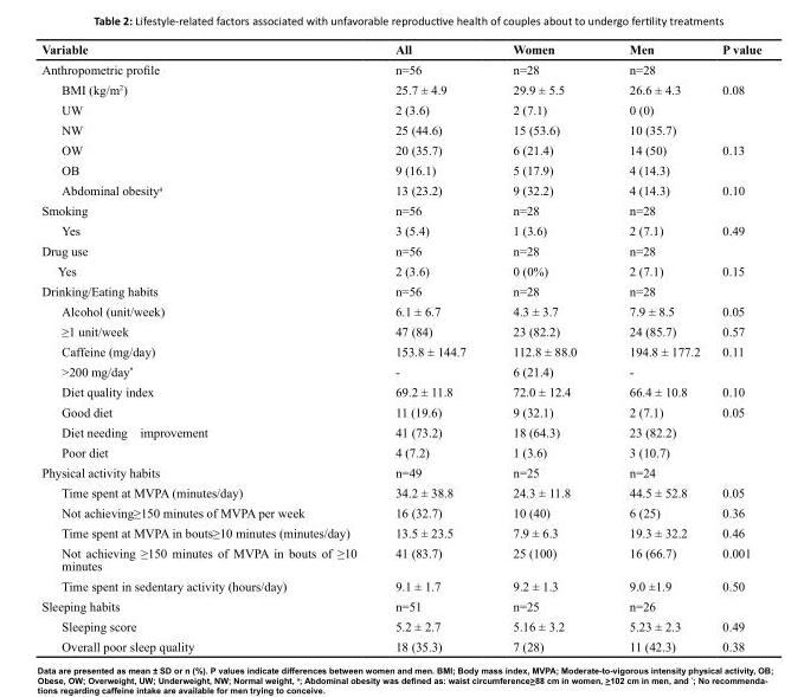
<table><thead><tr><td>Variable</td><td>All</td><td>Women</td><td>Men</td><td>P value</td></tr></thead><tbody><tr><td>Anthropometric profile</td><td>n=56</td><td>n=28</td><td>n=28</td><td></td></tr><tr><td>BMI (kg/m<sup>2</sup>)</td><td>25.7 ± 4.9</td><td>29.9 ± 5.5</td><td>26.6 ± 4.3</td><td>0.08</td></tr><tr><td>UW</td><td>2 (3.6)</td><td>2 (7.1)</td><td>0 (0)</td><td></td></tr><tr><td>NW</td><td>25 (44.6)</td><td>15 (53.6)</td><td>10 (35.7)</td><td rowspan="3">0.13</td></tr><tr><td>OW</td><td>20 (35.7)</td><td>6 (21.4)</td><td>14 (50)</td></tr><tr><td>OB</td><td>9 (16.1)</td><td>5 (17.9)</td><td>4 (14.3)</td></tr><tr><td>Abdominal obesity<sup>a</sup></td><td>13 (23.2)</td><td>9 (32.2)</td><td>4 (14.3)</td><td>0.10</td></tr><tr><td>Smoking</td><td>n=56</td><td>n=28</td><td>n=28</td><td></td></tr><tr><td>Yes</td><td>3 (5.4)</td><td>1 (3.6)</td><td>2 (7.1)</td><td>0.49</td></tr><tr><td>Drug use</td><td>n=56</td><td>n=28</td><td>n=28</td><td></td></tr><tr><td>Yes</td><td>2 (3.6)</td><td>0 (0%)</td><td>2 (7.1)</td><td>0.15</td></tr><tr><td>Drinking/Eating habits</td><td>n=56</td><td>n=28</td><td>n=28</td><td></td></tr><tr><td>Alcohol (unit/week)</td><td>6.1 ± 6.7</td><td>4.3 ± 3.7</td><td>7.9 ± 8.5</td><td>0.05</td></tr><tr><td>≥1 unit/week</td><td>47 (84)</td><td>23 (82.2)</td><td>24 (85.7)</td><td>0.57</td></tr><tr><td>Caffeine (mg/day)</td><td>153.8 ± 144.7</td><td>112.8 ± 88.0</td><td>194.8 ± 177.2</td><td>0.11</td></tr><tr><td>&gt;200 mg/day*</td><td>-</td><td>6 (21.4)</td><td>-</td><td></td></tr><tr><td>Diet quality index</td><td>69.2 ± 11.8</td><td>72.0 ± 12.4</td><td>66.4 ± 10.8</td><td>0.10</td></tr><tr><td>Good diet</td><td>11 (19.6)</td><td>9 (32.1)</td><td>2 (7.1)</td><td rowspan="3">0.05</td></tr><tr><td>Diet needing improvement</td><td>41 (73.2)</td><td>18 (64.3)</td><td>23 (82.2)</td></tr><tr><td>Poor diet</td><td>4 (7.2)</td><td>1 (3.6)</td><td>3 (10.7)</td></tr><tr><td>Physical activity habits</td><td>n=49</td><td>n=25</td><td>n=24</td><td></td></tr><tr><td>Time spent at MVPA (minutes/day)</td><td>34.2 ± 38.8</td><td>24.3 ± 11.8</td><td>44.5 ± 52.8</td><td>0.05</td></tr><tr><td>Not achieving≥150 minutes of MVPA per week</td><td>16 (32.7)</td><td>10 (40)</td><td>6 (25)</td><td>0.36</td></tr><tr><td>Time spent at MVPA in bouts≥10 minutes (minutes/day)</td><td>13.5 ± 23.5</td><td>7.9 ± 6.3</td><td>19.3 ± 32.2</td><td>0.46</td></tr><tr><td>Not achieving ≥150 minutes of MVPA in bouts of ≥10 minutes</td><td>41 (83.7)</td><td>25 (100)</td><td>16 (66.7)</td><td>0.001</td></tr><tr><td>Time spent in sedentary activity (hours/day)</td><td>9.1 ± 1.7</td><td>9.2 ± 1.3</td><td>9.0 ±1.9</td><td>0.50</td></tr><tr><td>Sleeping habits</td><td>n=51</td><td>n=25</td><td>n=26</td><td></td></tr><tr><td>Sleeping score</td><td>5.2 ± 2.7</td><td>5.16 ± 3.2</td><td>5.23 ± 2.3</td><td>0.49</td></tr><tr><td>Overall poor sleep quality</td><td>18 (35.3)</td><td>7 (28)</td><td>11 (42.3)</td><td>0.38</td></tr></tbody></table>